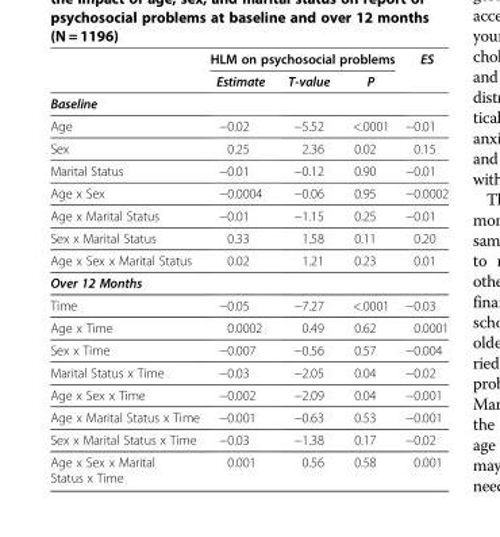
<table><thead><tr><td rowspan="2"></td><td colspan="3">HLM on psychosocial problems</td><td rowspan="2">ES</td></tr><tr><td>Estimate</td><td>T-value</td><td>P</td></tr></thead><tbody><tr><td colspan="5">Baseline</td></tr><tr><td>Age</td><td>−0.02</td><td>−5.52</td><td>&lt;.0001</td><td>−0.01</td></tr><tr><td>Sex</td><td>0.25</td><td>2.36</td><td>0.02</td><td>0.15</td></tr><tr><td>Marital Status</td><td>−0.01</td><td>−0.12</td><td>0.90</td><td>−0.01</td></tr><tr><td>Age x Sex</td><td>−0.0004</td><td>−0.06</td><td>0.95</td><td>−0.0002</td></tr><tr><td>Age x Marital Status</td><td>−0.01</td><td>−1.15</td><td>0.25</td><td>−0.01</td></tr><tr><td>Sex x Marital Status</td><td>0.33</td><td>1.58</td><td>0.11</td><td>0.20</td></tr><tr><td>Age x Sex x Marital Status</td><td>0.02</td><td>1.21</td><td>0.23</td><td>0.01</td></tr><tr><td colspan="5">Over 12 Months</td></tr><tr><td>Time</td><td>−0.05</td><td>−7.27</td><td>&lt;.0001</td><td>−0.03</td></tr><tr><td>Age x Time</td><td>0.0002</td><td>0.49</td><td>0.62</td><td>0.0001</td></tr><tr><td>Sex x Time</td><td>−0.007</td><td>−0.56</td><td>0.57</td><td>−0.004</td></tr><tr><td>Marital Status x Time</td><td>−0.03</td><td>−2.05</td><td>0.04</td><td>−0.02</td></tr><tr><td>Age x Sex x Time</td><td>−0.002</td><td>−2.09</td><td>0.04</td><td>−0.001</td></tr><tr><td>Age x Marital Status x Time</td><td>−0.001</td><td>−0.63</td><td>0.53</td><td>−0.001</td></tr><tr><td>Sex x Marital Status x Time</td><td>−0.03</td><td>−1.38</td><td>0.17</td><td>−0.02</td></tr><tr><td>Age x Sex x Marital Status x Time</td><td>0.001</td><td>0.56</td><td>0.58</td><td>0.001</td></tr></tbody></table>